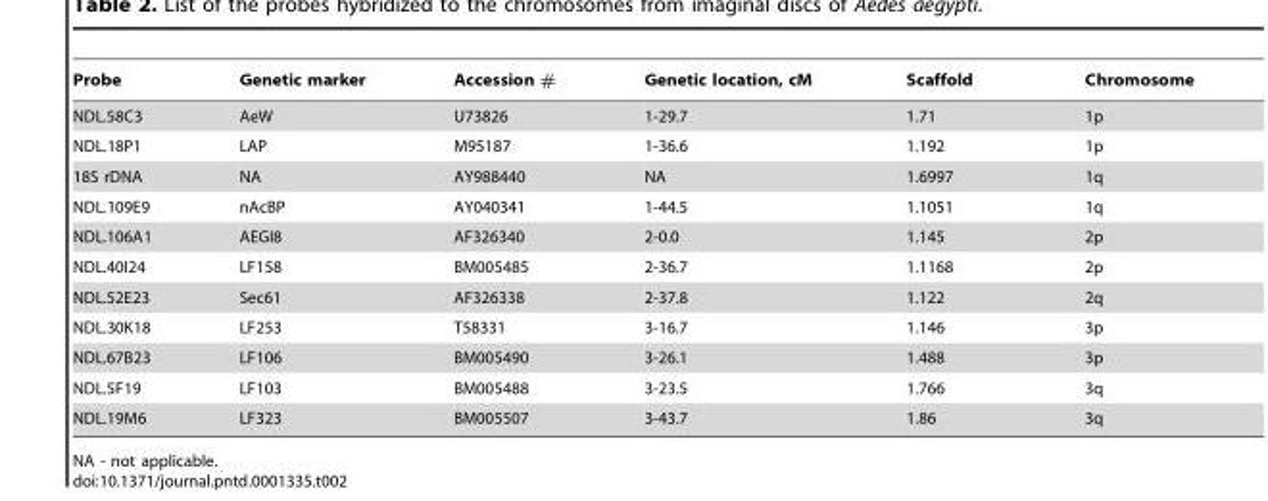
<table><thead><tr><td>Probe</td><td>Genetic marker</td><td>Accession #</td><td>Genetic location, cM</td><td>Scaffold</td><td>Chromosome</td></tr></thead><tbody><tr><td>NDL.58C3</td><td>AeW</td><td>U73826</td><td>1-29.7</td><td>1.71</td><td>1p</td></tr><tr><td>NDL.18P1</td><td>LAP</td><td>M95187</td><td>1-36.6</td><td>1.192</td><td>1p</td></tr><tr><td>18S rDNA</td><td>NA</td><td>AY988440</td><td>NA</td><td>1.6997</td><td>1q</td></tr><tr><td>NDL.109E9</td><td>nAcBP</td><td>AY040341</td><td>1-44.5</td><td>1.1051</td><td>1q</td></tr><tr><td>NDL.106A1</td><td>AEGI8</td><td>AF326340</td><td>2-0.0</td><td>1.145</td><td>2p</td></tr><tr><td>NDL.40I24</td><td>LF158</td><td>BM005485</td><td>2-36.7</td><td>1.1168</td><td>2p</td></tr><tr><td>NDL.52E23</td><td>Sec61</td><td>AF326338</td><td>2-37.8</td><td>1.122</td><td>2q</td></tr><tr><td>NDL.30K18</td><td>LF253</td><td>T58331</td><td>3-16.7</td><td>1.146</td><td>3p</td></tr><tr><td>NDL.67B23</td><td>LF106</td><td>BM005490</td><td>3-26.1</td><td>1.488</td><td>3p</td></tr><tr><td>NDL.5F19</td><td>LF103</td><td>BM005488</td><td>3-23.5</td><td>1.766</td><td>3q</td></tr><tr><td>NDL.19M6</td><td>LF323</td><td>BM005507</td><td>3-43.7</td><td>1.86</td><td>3q</td></tr></tbody></table>